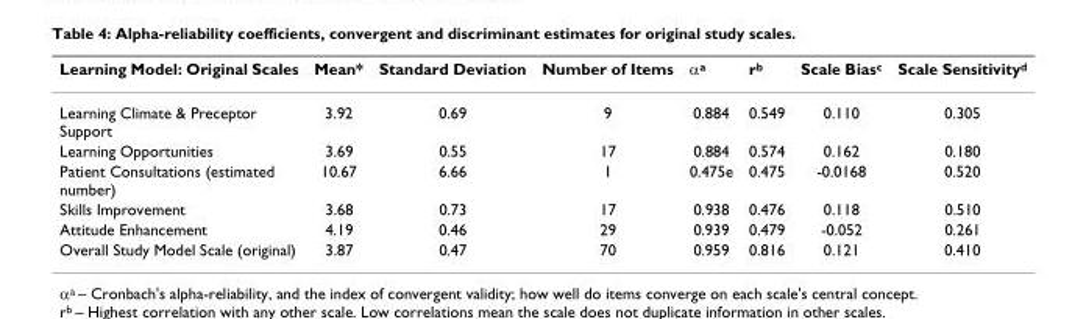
<table><thead><tr><td>Learning Model: Original Scales</td><td>Mean*</td><td>Standard Deviation</td><td>Number of Items</td><td>α<sup>a</sup></td><td>r<sup>b</sup></td><td>Scale Bias<sup>c</sup></td><td>Scale Sensitivity<sup>d</sup></td></tr></thead><tbody><tr><td>Learning Climate &amp; Preceptor Support</td><td>3.92</td><td>0.69</td><td>9</td><td>0.884</td><td>0.549</td><td>0.110</td><td>0.305</td></tr><tr><td>Learning Opportunities</td><td>3.69</td><td>0.55</td><td>17</td><td>0.884</td><td>0.574</td><td>0.162</td><td>0.180</td></tr><tr><td>Patient Consultations (estimated number)</td><td>10.67</td><td>6.66</td><td>1</td><td>0.475e</td><td>0.475</td><td>-0.0168</td><td>0.520</td></tr><tr><td>Skills Improvement</td><td>3.68</td><td>0.73</td><td>17</td><td>0.938</td><td>0.476</td><td>0.118</td><td>0.510</td></tr><tr><td>Attitude Enhancement</td><td>4.19</td><td>0.46</td><td>29</td><td>0.939</td><td>0.479</td><td>-0.052</td><td>0.261</td></tr><tr><td>Overall Study Model Scale (original)</td><td>3.87</td><td>0.47</td><td>70</td><td>0.959</td><td>0.816</td><td>0.121</td><td>0.410</td></tr></tbody></table>